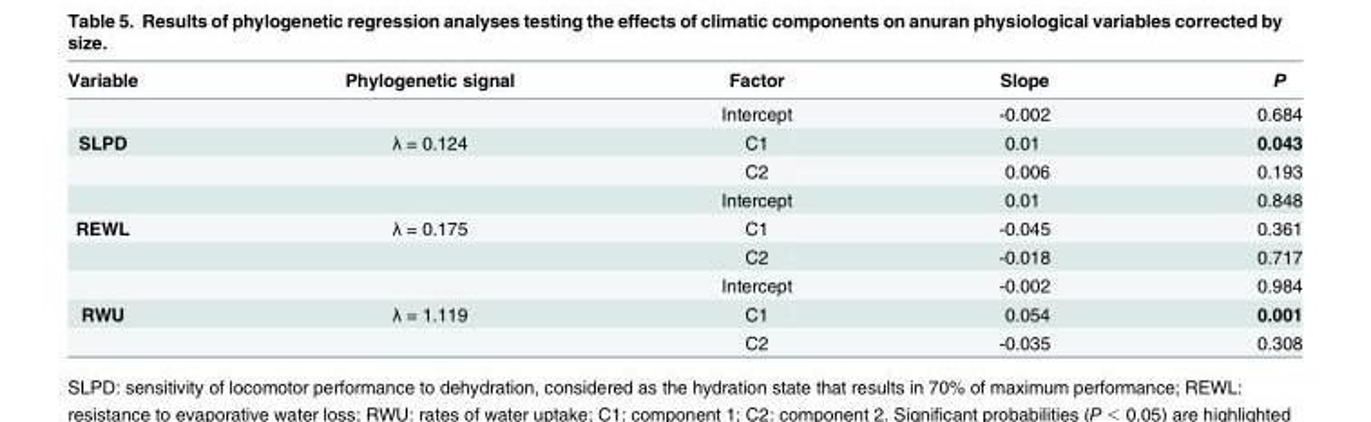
<table><thead><tr><td>Variable</td><td>Phylogenetic signal</td><td>Factor</td><td>Slope</td><td>P</td></tr></thead><tbody><tr><td></td><td></td><td>Intercept</td><td>-0.002</td><td>0.684</td></tr><tr><td rowspan="3">SLPD</td><td>λ = 0.124</td><td>C1</td><td>0.01</td><td>0.043</td></tr><tr><td></td><td>C2</td><td>0.006</td><td>0.193</td></tr><tr><td></td><td>Intercept</td><td>0.01</td><td>0.848</td></tr><tr><td rowspan="3">REWL</td><td>λ = 0.175</td><td>C1</td><td>-0.045</td><td>0.361</td></tr><tr><td></td><td>C2</td><td>-0.018</td><td>0.717</td></tr><tr><td></td><td>Intercept</td><td>-0.002</td><td>0.984</td></tr><tr><td rowspan="2">RWU</td><td>λ = 1.119</td><td>C1</td><td>0.054</td><td>0.001</td></tr><tr><td></td><td>C2</td><td>-0.035</td><td>0.308</td></tr></tbody></table>